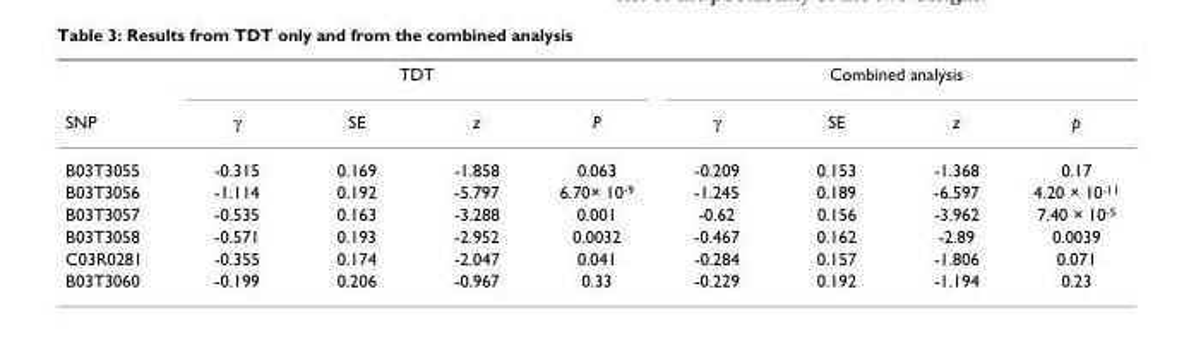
<table><thead><tr><td rowspan="2">SNP</td><td colspan="4">TDT</td><td colspan="4">Combined analysis</td></tr><tr><td>γ</td><td>SE</td><td>z</td><td>P</td><td>γ</td><td>SE</td><td>z</td><td>p</td></tr></thead><tbody><tr><td>B03T3055</td><td>-0.315</td><td>0.169</td><td>-1.858</td><td>0.063</td><td>-0.209</td><td>0.153</td><td>-1.368</td><td>0.17</td></tr><tr><td>B03T3056</td><td>-1.114</td><td>0.192</td><td>-5.797</td><td>6.70× 10-9</td><td>-1.245</td><td>0.189</td><td>-6.597</td><td>4.20 × 10-11</td></tr><tr><td>B03T3057</td><td>-0.535</td><td>0.163</td><td>-3.288</td><td>0.001</td><td>-0.62</td><td>0.156</td><td>-3.962</td><td>7.40 × 10-5</td></tr><tr><td>B03T3058</td><td>-0.571</td><td>0.193</td><td>-2.952</td><td>0.0032</td><td>-0.467</td><td>0.162</td><td>-2.89</td><td>0.0039</td></tr><tr><td>C03R0281</td><td>-0.355</td><td>0.174</td><td>-2.047</td><td>0.041</td><td>-0.284</td><td>0.157</td><td>-1.806</td><td>0.071</td></tr><tr><td>B03T3060</td><td>-0.199</td><td>0.206</td><td>-0.967</td><td>0.33</td><td>-0.229</td><td>0.192</td><td>-1.194</td><td>0.23</td></tr></tbody></table>